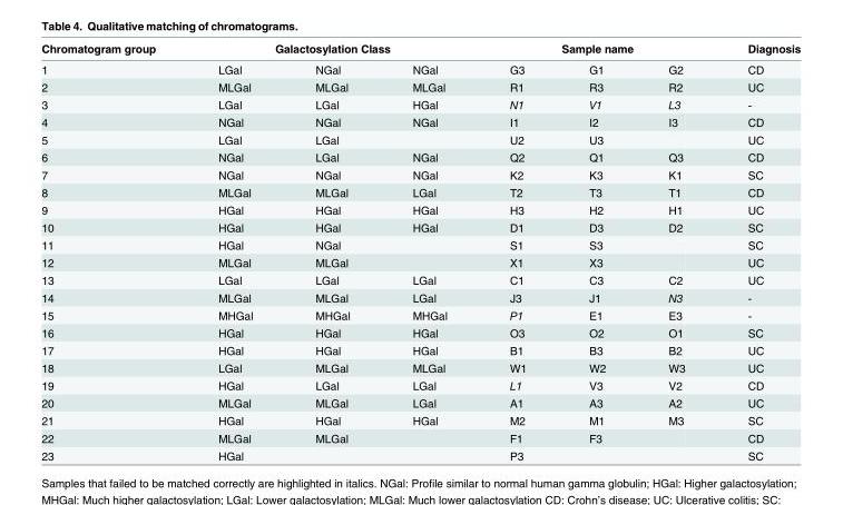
<table><thead><tr><td rowspan="2">Chromatogram group 1</td><td colspan="3">Galactosylation Class</td><td colspan="3">Sample name</td><td rowspan="2">Diagnosis CD</td></tr><tr><td>LGal</td><td>NGal</td><td>NGal</td><td>G3</td><td>G1</td><td>G2</td></tr></thead><tbody><tr><td>2</td><td>MLGal</td><td>MLGal</td><td>MLGal</td><td>R1</td><td>R3</td><td>R2</td><td>UC</td></tr><tr><td>3</td><td>LGal</td><td>LGal</td><td>HGal</td><td>N1</td><td>V1</td><td>L3</td><td>-</td></tr><tr><td>4</td><td>NGal</td><td>NGal</td><td>NGal</td><td>I1</td><td>I2</td><td>I3</td><td>CD</td></tr><tr><td>5</td><td>LGal</td><td>LGal</td><td></td><td>U2</td><td>U3</td><td></td><td>UC</td></tr><tr><td>6</td><td>NGal</td><td>LGal</td><td>NGal</td><td>Q2</td><td>Q1</td><td>Q3</td><td>CD</td></tr><tr><td>7</td><td>NGal</td><td>NGal</td><td>NGal</td><td>K2</td><td>K3</td><td>K1</td><td>SC</td></tr><tr><td>8</td><td>MLGal</td><td>MLGal</td><td>LGal</td><td>T2</td><td>T3</td><td>T1</td><td>CD</td></tr><tr><td>9</td><td>HGal</td><td>HGal</td><td>HGal</td><td>H3</td><td>H2</td><td>H1</td><td>UC</td></tr><tr><td>10</td><td>HGal</td><td>HGal</td><td>HGal</td><td>D1</td><td>D3</td><td>D2</td><td>SC</td></tr><tr><td>11</td><td>HGal</td><td>NGal</td><td></td><td>S1</td><td>S3</td><td></td><td>SC</td></tr><tr><td>12</td><td>MLGal</td><td>MLGal</td><td></td><td>X1</td><td>X3</td><td></td><td>UC</td></tr><tr><td>13</td><td>LGal</td><td>LGal</td><td>LGal</td><td>C1</td><td>C3</td><td>C2</td><td>UC</td></tr><tr><td>14</td><td>MLGal</td><td>MLGal</td><td>LGal</td><td>J3</td><td>J1</td><td>N3</td><td>-</td></tr><tr><td>15</td><td>MHGal</td><td>MHGal</td><td>MHGal</td><td>P1</td><td>E1</td><td>E3</td><td>-</td></tr><tr><td>16</td><td>HGal</td><td>HGal</td><td>HGal</td><td>O3</td><td>O2</td><td>O1</td><td>SC</td></tr><tr><td>17</td><td>HGal</td><td>HGal</td><td>HGal</td><td>B1</td><td>B3</td><td>B2</td><td>UC</td></tr><tr><td>18</td><td>LGal</td><td>MLGal</td><td>MLGal</td><td>W1</td><td>W2</td><td>W3</td><td>UC</td></tr><tr><td>19</td><td>HGal</td><td>LGal</td><td>LGal</td><td>L1</td><td>V3</td><td>V2</td><td>CD</td></tr><tr><td>20</td><td>MLGal</td><td>MLGal</td><td>LGal</td><td>A1</td><td>A3</td><td>A2</td><td>UC</td></tr><tr><td>21</td><td>HGal</td><td>HGal</td><td>HGal</td><td>M2</td><td>M1</td><td>M3</td><td>SC</td></tr><tr><td>22</td><td>MLGal</td><td>MLGal</td><td></td><td>F1</td><td>F3</td><td></td><td>CD</td></tr><tr><td>23</td><td>HGal</td><td></td><td></td><td>P3</td><td></td><td></td><td>SC</td></tr></tbody></table>